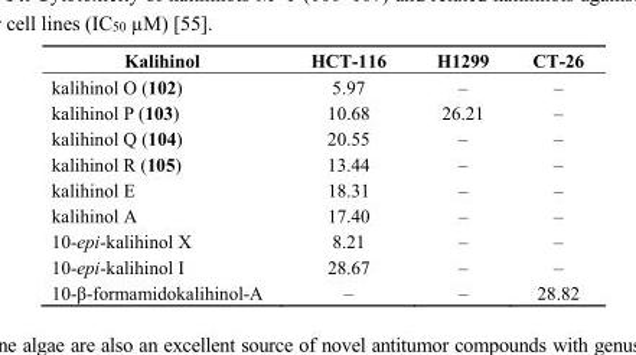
<table><thead><tr><td>Kalihinol</td><td>HCT-116</td><td>H1299</td><td>CT-26</td></tr></thead><tbody><tr><td>kalihinol O (102)</td><td>5.97</td><td>–</td><td>–</td></tr><tr><td>kalihinol P (103)</td><td>10.68</td><td>26.21</td><td>–</td></tr><tr><td>kalihinol Q (104)</td><td>20.55</td><td>–</td><td>–</td></tr><tr><td>kalihinol R (105)</td><td>13.44</td><td>–</td><td>–</td></tr><tr><td>kalihinol E</td><td>18.31</td><td>–</td><td>–</td></tr><tr><td>kalihinol A</td><td>17.40</td><td>–</td><td>–</td></tr><tr><td>10-epi-kalihinol X</td><td>8.21</td><td>–</td><td>–</td></tr><tr><td>10-epi-kalihinol I</td><td>28.67</td><td>–</td><td>–</td></tr><tr><td>10-β-formamidokalihinol-A</td><td>–</td><td>–</td><td>28.82</td></tr></tbody></table>